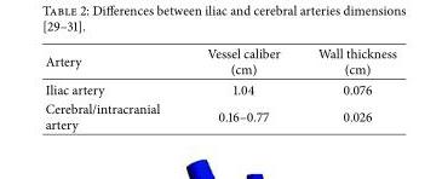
<table><thead><tr><td>Artery</td><td>Vessel caliber (cm)</td><td>Wall thickness (cm)</td></tr></thead><tbody><tr><td>Iliac artery</td><td>1.04</td><td>0.076</td></tr><tr><td>Cerebral/intracranial artery</td><td>0.16–0.77</td><td>0.026</td></tr></tbody></table>